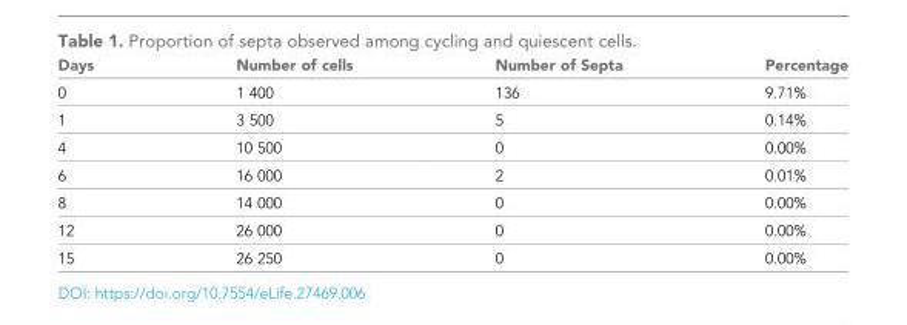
<table><thead><tr><td>Days</td><td>Number of cells</td><td>Number of Septa</td><td>Percentage</td></tr></thead><tbody><tr><td>0</td><td>1 400</td><td>136</td><td>9.71%</td></tr><tr><td>1</td><td>3 500</td><td>5</td><td>0.14%</td></tr><tr><td>4</td><td>10 500</td><td>0</td><td>0.00%</td></tr><tr><td>6</td><td>16 000</td><td>2</td><td>0.01%</td></tr><tr><td>8</td><td>14 000</td><td>0</td><td>0.00%</td></tr><tr><td>12</td><td>26 000</td><td>0</td><td>0.00%</td></tr><tr><td>15</td><td>26 250</td><td>0</td><td>0.00%</td></tr></tbody></table>